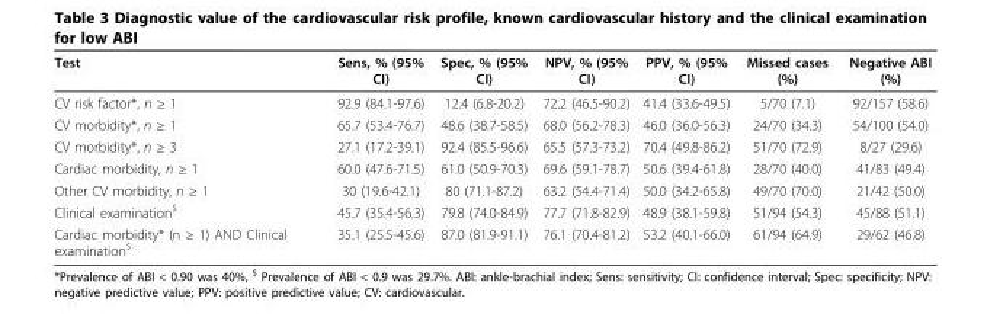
<table><thead><tr><td>Test</td><td>Sens, % (95% CI)</td><td>Spec, % (95% CI)</td><td>NPV, % (95% CI)</td><td>PPV, % (95% CI)</td><td>Missed cases (%)</td><td>Negative ABI (%)</td></tr></thead><tbody><tr><td>CV risk factor*, n ≥ 1</td><td>92.9 (84.1-97.6)</td><td>12.4 (6.8-20.2)</td><td>72.2 (46.5-90.2)</td><td>41.4 (33.6-49.5)</td><td>5/70 (7.1)</td><td>92/157 (58.6)</td></tr><tr><td>CV morbidity*, n ≥ 1</td><td>65.7 (53.4-76.7)</td><td>48.6 (38.7-58.5)</td><td>68.0 (56.2-78.3)</td><td>46.0 (36.0-56.3)</td><td>24/70 (34.3)</td><td>54/100 (54.0)</td></tr><tr><td>CV morbidity*, n ≥ 3</td><td>27.1 (17.2-39.1)</td><td>92.4 (85.5-96.6)</td><td>65.5 (57.3-73.2)</td><td>70.4 (49.8-86.2)</td><td>51/70 (72.9)</td><td>8/27 (29.6)</td></tr><tr><td>Cardiac morbidity, n ≥ 1</td><td>60.0 (47.6-71.5)</td><td>61.0 (50.9-70.3)</td><td>69.6 (59.1-78.7)</td><td>50.6 (39.4-61.8)</td><td>28/70 (40.0)</td><td>41/83 (49.4)</td></tr><tr><td>Other CV morbidity, n ≥ 1</td><td>30 (19.6-42.1)</td><td>80 (71.1-87.2)</td><td>63.2 (54.4-71.4)</td><td>50.0 (34.2-65.8)</td><td>49/70 (70.0)</td><td>21/42 (50.0)</td></tr><tr><td>Clinical examination<sup>$</sup></td><td>45.7 (35.4-56.3)</td><td>79.8 (74.0-84.9)</td><td>77.7 (71.8-82.9)</td><td>48.9 (38.1-59.8)</td><td>51/94 (54.3)</td><td>45/88 (51.1)</td></tr><tr><td>Cardiac morbidity* (n ≥ 1) AND Clinical examination<sup>$</sup></td><td>35.1 (25.5-45.6)</td><td>87.0 (81.9-91.1)</td><td>76.1 (70.4-81.2)</td><td>53.2 (40.1-66.0)</td><td>61/94 (64.9)</td><td>29/62 (46.8)</td></tr></tbody></table>